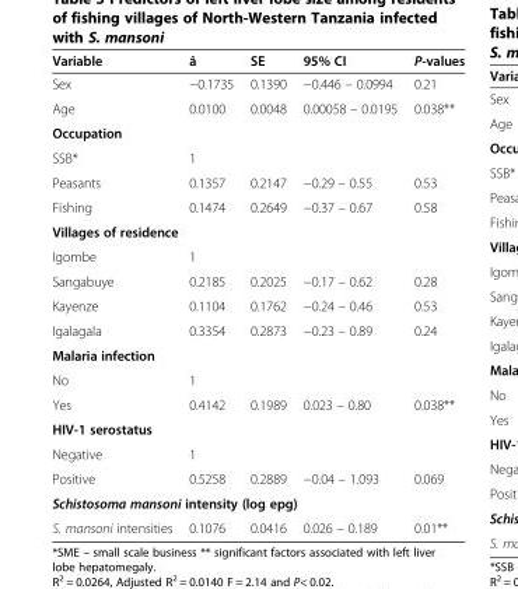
<table><thead><tr><td>Variable</td><td>â</td><td>SE</td><td>95% CI</td><td>P-values</td></tr></thead><tbody><tr><td>Sex</td><td>−0.1735</td><td>0.1390</td><td>−0.446 – 0.0994</td><td>0.21</td></tr><tr><td>Age</td><td>0.0100</td><td>0.0048</td><td>0.00058 – 0.0195</td><td>0.038**</td></tr><tr><td colspan="5">Occupation</td></tr><tr><td>SSB*</td><td>1</td><td></td><td></td><td></td></tr><tr><td>Peasants</td><td>0.1357</td><td>0.2147</td><td>−0.29 – 0.55</td><td>0.53</td></tr><tr><td>Fishing</td><td>0.1474</td><td>0.2649</td><td>−0.37 – 0.67</td><td>0.58</td></tr><tr><td colspan="5">Villages of residence</td></tr><tr><td>Igombe</td><td>1</td><td></td><td></td><td></td></tr><tr><td>Sangabuye</td><td>0.2185</td><td>0.2025</td><td>−0.17 – 0.62</td><td>0.28</td></tr><tr><td>Kayenze</td><td>0.1104</td><td>0.1762</td><td>−0.24 – 0.46</td><td>0.53</td></tr><tr><td>Igalagala</td><td>0.3354</td><td>0.2873</td><td>−0.23 – 0.89</td><td>0.24</td></tr><tr><td colspan="5">Malaria infection</td></tr><tr><td>No</td><td>1</td><td></td><td></td><td></td></tr><tr><td>Yes</td><td>0.4142</td><td>0.1989</td><td>0.023 – 0.80</td><td>0.038**</td></tr><tr><td colspan="5">HIV-1 serostatus</td></tr><tr><td>Negative</td><td>1</td><td></td><td></td><td></td></tr><tr><td>Positive</td><td>0.5258</td><td>0.2889</td><td>−0.04 – 1.093</td><td>0.069</td></tr><tr><td colspan="5">Schistosoma mansoni intensity (log epg)</td></tr><tr><td>S. mansoni intensities</td><td>0.1076</td><td>0.0416</td><td>0.026 – 0.189</td><td>0.01**</td></tr></tbody></table>